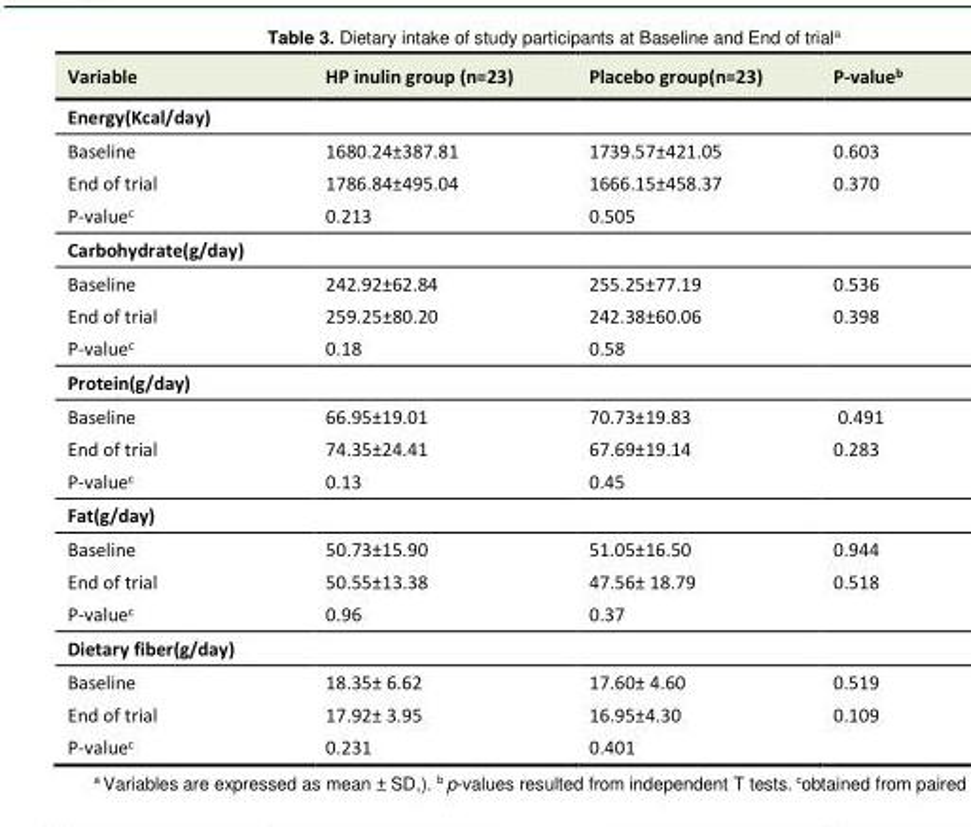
<table><tbody><tr><td>Variable</td><td>HP inulin group (n=23)</td><td>Placebo group(n=23)</td><td>P-value<sup>b</sup></td></tr><tr><td colspan="4">Energy(Kcal/day)</td></tr><tr><td>Baseline</td><td>1680.24±387.81</td><td>1739.57±421.05</td><td>0.603</td></tr><tr><td>End of trial</td><td>1786.84±495.04</td><td>1666.15±458.37</td><td>0.370</td></tr><tr><td>P-value<sup>c</sup></td><td>0.213</td><td>0.505</td><td></td></tr><tr><td colspan="4">Carbohydrate(g/day)</td></tr><tr><td>Baseline</td><td>242.92±62.84</td><td>255.25±77.19</td><td>0.536</td></tr><tr><td>End of trial</td><td>259.25±80.20</td><td>242.38±60.06</td><td>0.398</td></tr><tr><td>P-value<sup>c</sup></td><td>0.18</td><td>0.58</td><td></td></tr><tr><td colspan="4">Protein(g/day)</td></tr><tr><td>Baseline</td><td>66.95±19.01</td><td>70.73±19.83</td><td>0.491</td></tr><tr><td>End of trial</td><td>74.35±24.41</td><td>67.69±19.14</td><td>0.283</td></tr><tr><td>P-value<sup>c</sup></td><td>0.13</td><td>0.45</td><td></td></tr><tr><td colspan="4">Fat(g/day)</td></tr><tr><td>Baseline</td><td>50.73±15.90</td><td>51.05±16.50</td><td>0.944</td></tr><tr><td>End of trial</td><td>50.55±13.38</td><td>47.56± 18.79</td><td>0.518</td></tr><tr><td>P-value<sup>c</sup></td><td>0.96</td><td>0.37</td><td></td></tr><tr><td colspan="4">Dietary fiber(g/day)</td></tr><tr><td>Baseline</td><td>18.35± 6.62</td><td>17.60± 4.60</td><td>0.519</td></tr><tr><td>End of trial</td><td>17.92± 3.95</td><td>16.95±4.30</td><td>0.109</td></tr><tr><td>P-value<sup>c</sup></td><td>0.231</td><td>0.401</td><td></td></tr></tbody></table>